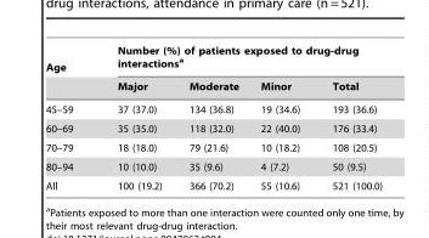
<table><thead><tr><td rowspan="2">Age</td><td colspan="4">Number (%) of patients exposed to drug-drug interactions<sup>a</sup></td></tr><tr><td>Major</td><td>Moderate</td><td>Minor</td><td>Total</td></tr></thead><tbody><tr><td>45–59</td><td>37 (37.0)</td><td>134 (36.8)</td><td>19 (34.6)</td><td>193 (36.6)</td></tr><tr><td>60–69</td><td>35 (35.0)</td><td>118 (32.0)</td><td>22 (40.0)</td><td>176 (33.4)</td></tr><tr><td>70–79</td><td>18 (18.0)</td><td>79 (21.6)</td><td>10 (18.2)</td><td>108 (20.5)</td></tr><tr><td>80–94</td><td>10 (10.0)</td><td>35 (9.6)</td><td>4 (7.2)</td><td>50 (9.5)</td></tr><tr><td>All</td><td>100 (19.2)</td><td>366 (70.2)</td><td>55 (10.6)</td><td>521 (100.0)</td></tr></tbody></table>